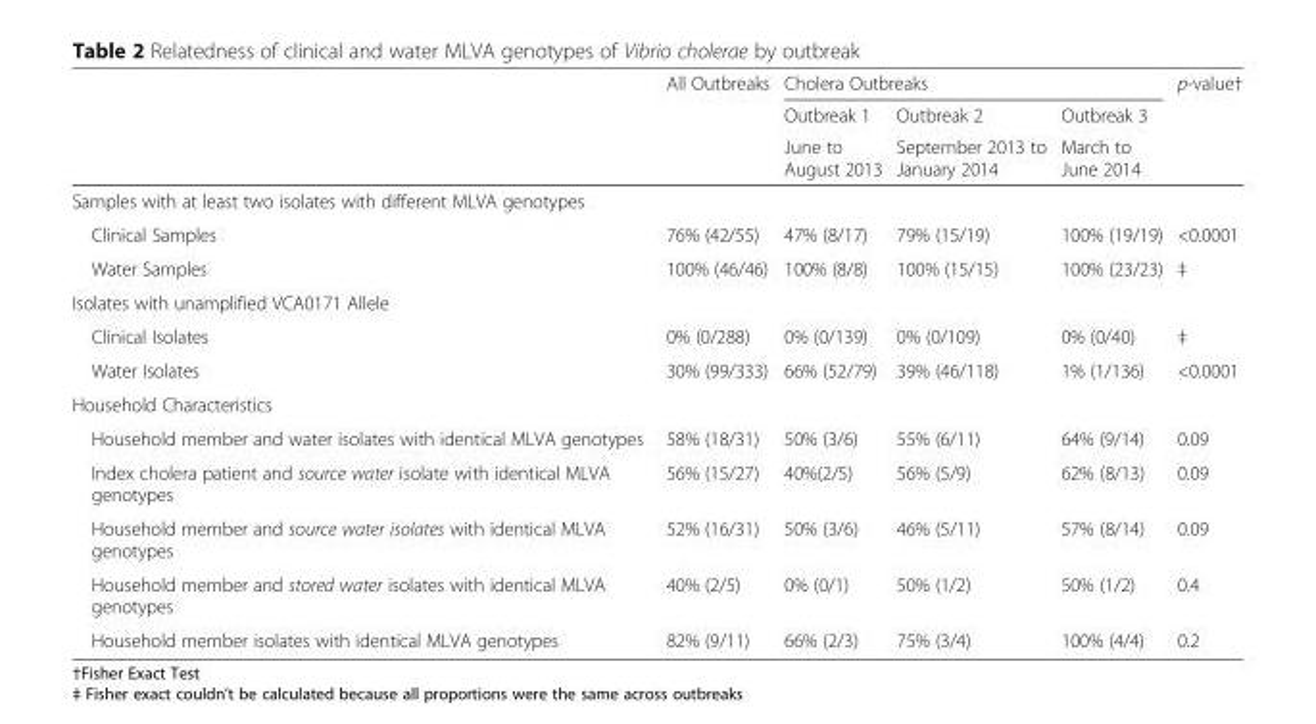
<table><thead><tr><td rowspan="3"></td><td rowspan="3">All Outbreaks</td><td colspan="3">Cholera Outbreaks</td><td rowspan="3">p-value†</td></tr><tr><td rowspan="2">Outbreak 1 June to August 2013</td><td rowspan="2">Outbreak 2 September 2013 to January 2014</td><td rowspan="2">Outbreak 3 March to June 2014</td></tr><tr></tr></thead><tbody><tr><td colspan="6">Samples with at least two isolates with different MLVA genotypes</td></tr><tr><td>Clinical Samples</td><td>76% (42/55)</td><td>47% (8/17)</td><td>79% (15/19)</td><td>100% (19/19)</td><td>&lt;0.0001</td></tr><tr><td>Water Samples</td><td>100% (46/46)</td><td>100% (8/8)</td><td>100% (15/15)</td><td>100% (23/23)</td><td>‡</td></tr><tr><td colspan="6">Isolates with unamplified VCA0171 Allele</td></tr><tr><td>Clinical Isolates</td><td>0% (0/288)</td><td>0% (0/139)</td><td>0% (0/109)</td><td>0% (0/40)</td><td>‡</td></tr><tr><td>Water Isolates</td><td>30% (99/333)</td><td>66% (52/79)</td><td>39% (46/118)</td><td>1% (1/136)</td><td>&lt;0.0001</td></tr><tr><td colspan="6">Household Characteristics</td></tr><tr><td>Household member and water isolates with identical MLVA genotypes</td><td>58% (18/31)</td><td>50% (3/6)</td><td>55% (6/11)</td><td>64% (9/14)</td><td>0.09</td></tr><tr><td>Index cholera patient and source water isolate with identical MLVA genotypes</td><td>56% (15/27)</td><td>40%(2/5)</td><td>56% (5/9)</td><td>62% (8/13)</td><td>0.09</td></tr><tr><td>Household member and source water isolates with identical MLVA genotypes</td><td>52% (16/31)</td><td>50% (3/6)</td><td>46% (5/11)</td><td>57% (8/14)</td><td>0.09</td></tr><tr><td>Household member and stored water isolates with identical MLVA genotypes</td><td>40% (2/5)</td><td>0% (0/1)</td><td>50% (1/2)</td><td>50% (1/2)</td><td>0.4</td></tr><tr><td>Household member isolates with identical MLVA genotypes</td><td>82% (9/11)</td><td>66% (2/3)</td><td>75% (3/4)</td><td>100% (4/4)</td><td>0.2</td></tr></tbody></table>